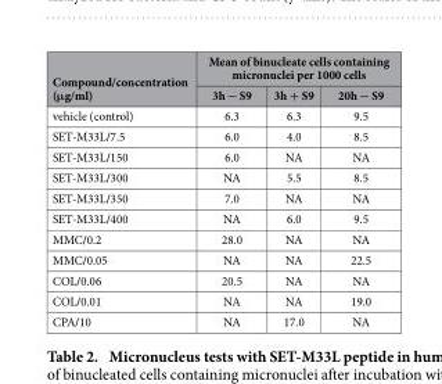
<table><thead><tr><td rowspan="2">Compound/concentration (μg/ml)</td><td colspan="3">Mean of binucleate cells containing micronuclei per 1000 cells</td></tr><tr><td>3h − S9</td><td>3h + S9</td><td>20h − S9</td></tr></thead><tbody><tr><td>vehicle (control)</td><td>6.3</td><td>6.3</td><td>9.5</td></tr><tr><td>SET-M33L/7.5</td><td>6.0</td><td>4.0</td><td>8.5</td></tr><tr><td>SET-M33L/150</td><td>6.0</td><td>NA</td><td>NA</td></tr><tr><td>SET-M33L/300</td><td>NA</td><td>5.5</td><td>8.5</td></tr><tr><td>SET-M33L/350</td><td>7.0</td><td>NA</td><td>NA</td></tr><tr><td>SET-M33L/400</td><td>NA</td><td>6.0</td><td>9.5</td></tr><tr><td>MMC/0.2</td><td>28.0</td><td>NA</td><td>NA</td></tr><tr><td>MMC/0.05</td><td>NA</td><td>NA</td><td>22.5</td></tr><tr><td>COL/0.06</td><td>20.5</td><td>NA</td><td>NA</td></tr><tr><td>COL/0.01</td><td>NA</td><td>NA</td><td>19.0</td></tr><tr><td>CPA/10</td><td>NA</td><td>17.0</td><td>NA</td></tr></tbody></table>